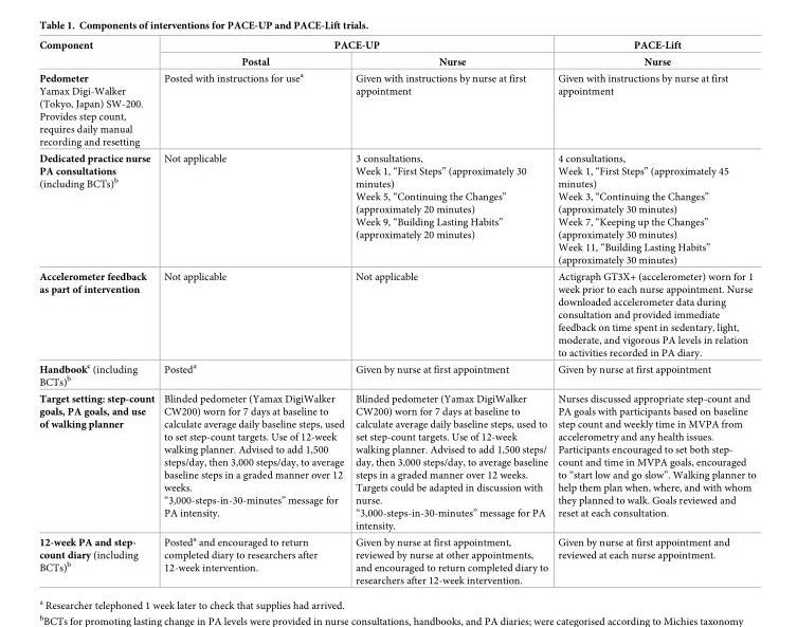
<table><thead><tr><td rowspan="2">Component</td><td colspan="2">PACE-UP</td><td rowspan="2">PACE-Lift Nurse</td></tr><tr><td>Postal</td><td>Nurse</td></tr></thead><tbody><tr><td>Pedometer Yamax Digi-Walker (Tokyo, Japan) SW-200. Provides step count, requires daily manual recording and resetting</td><td>Posted with instructions for use<sup>a</sup></td><td>Given with instructions by nurse at first appointment</td><td>Given with instructions by nurse at first appointment</td></tr><tr><td>Dedicated practice nurse PA consultations (including BCTs)<sup>b</sup></td><td>Not applicable</td><td>3 consultations, Week 1, “First Steps” (approximately 30 minutes) Week 5, “Continuing the Changes” (approximately 20 minutes) Week 9, “Building Lasting Habits” (approximately 20 minutes)</td><td>4 consultations, Week 1, “First Steps” (approximately 45 minutes) Week 3, “Continuing the Changes” (approximately 30 minutes) Week 7, “Keeping up the Changes” (approximately 30 minutes) Week 11, “Building Lasting Habits” (approximately 30 minutes)</td></tr><tr><td>Accelerometer feedback as part of intervention</td><td>Not applicable</td><td>Not applicable</td><td>Actigraph GT3X+ (accelerometer) worn for 1 week prior to each nurse appointment. Nurse downloaded accelerometer data during consultation and provided immediate feedback on time spent in sedentary, light, moderate, and vigorous PA levels in relation to activities recorded in PA diary.</td></tr><tr><td>Handbook<sup>c</sup> (including BCTs)<sup>b</sup></td><td>Posted<sup>a</sup></td><td>Given by nurse at first appointment</td><td>Given by nurse at first appointment</td></tr><tr><td>Target setting: step-count goals, PA goals, and use of walking planner</td><td>Blinded pedometer (Yamax DigiWalker CW200) worn for 7 days at baseline to calculate average daily baseline steps, used to set step-count targets. Use of 12-week walking planner. Advised to add 1,500 steps/day, then 3,000 steps/day, to average baseline steps in a graded manner over 12 weeks. “3,000-steps-in-30-minutes” message for PA intensity.</td><td>Blinded pedometer (Yamax DigiWalker CW200) worn for 7 days at baseline to calculate average daily baseline steps, used to set step-count targets. Use of 12-week walking planner. Advised to add 1,500 steps/ day, then 3,000 steps/day, to average baseline steps in a graded manner over 12 weeks. Targets could be adapted in discussion with nurse. “3,000-steps-in-30-minutes” message for PA intensity.</td><td>Nurses discussed appropriate step-count and PA goals with participants based on baseline step count and weekly time in MVPA from accelerometry and any health issues. Participants encouraged to set both step- count and time in MVPA goals, encouraged to “start low and go slow”. Walking planner to help them plan when, where, and with whom they planned to walk. Goals reviewed and reset at each consultation.</td></tr><tr><td>12-week PA and step- count diary (including BCTs)<sup>b</sup></td><td>Posted<sup>a</sup> and encouraged to return completed diary to researchers after 12-week intervention.</td><td>Given by nurse at first appointment, reviewed by nurse at other appointments, and encouraged to return completed diary to researchers after 12-week intervention.</td><td>Given by nurse at first appointment and reviewed at each nurse appointment.</td></tr></tbody></table>